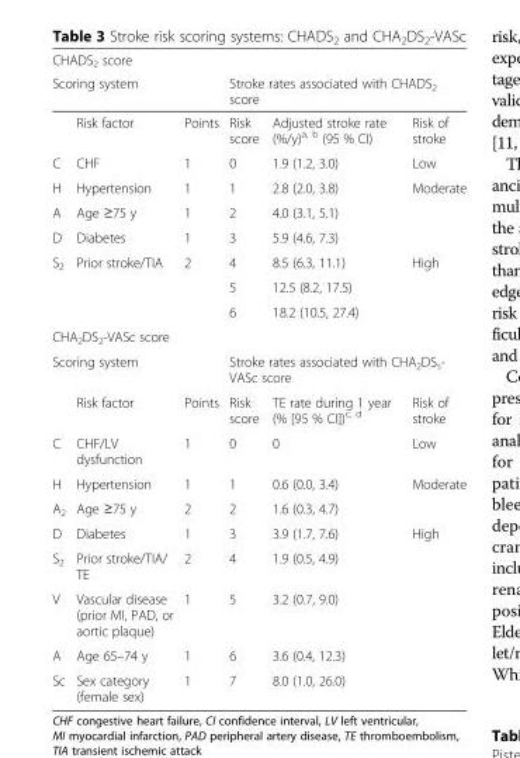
<table><thead><tr><td colspan="6">CHADS<sub>2</sub> score</td></tr><tr><td colspan="3">Scoring system</td><td colspan="3">Stroke rates associated with CHADS<sub>2</sub> score</td></tr><tr><td></td><td>Risk factor</td><td>Points</td><td>Risk score</td><td>Adjusted stroke rate (%/y)<sup>a, b</sup> (95 % CI)</td><td>Risk of stroke</td></tr></thead><tbody><tr><td>C</td><td>CHF</td><td>1</td><td>0</td><td>1.9 (1.2, 3.0)</td><td>Low</td></tr><tr><td>H</td><td>Hypertension</td><td>1</td><td>1</td><td>2.8 (2.0, 3.8)</td><td rowspan="3">Moderate</td></tr><tr><td>A</td><td>Age ≥75 y</td><td>1</td><td>2</td><td>4.0 (3.1, 5.1)</td></tr><tr><td>D</td><td>Diabetes</td><td>1</td><td>3</td><td>5.9 (4.6, 7.3)</td></tr><tr><td rowspan="3">S<sub>2</sub></td><td rowspan="3">Prior stroke/TIA</td><td rowspan="3">2</td><td>4</td><td>8.5 (6.3, 11.1)</td><td rowspan="3">High</td></tr><tr><td>5</td><td>12.5 (8.2, 17.5)</td></tr><tr><td>6</td><td>18.2 (10.5, 27.4)</td></tr><tr><td colspan="6">CHA<sub>2</sub>DS<sub>2</sub>-VASc score</td></tr><tr><td colspan="3">Scoring system</td><td colspan="3">Stroke rates associated with CHA<sub>2</sub>DS<sub>s</sub>- VASc score</td></tr><tr><td></td><td>Risk factor</td><td>Points</td><td>Risk score</td><td>TE rate during 1 year (% [95 % CI])<sup>c, d</sup></td><td>Risk of stroke</td></tr><tr><td>C</td><td>CHF/LV dysfunction</td><td>1</td><td>0</td><td>0</td><td>Low</td></tr><tr><td>H</td><td>Hypertension</td><td>1</td><td>1</td><td>0.6 (0.0, 3.4)</td><td rowspan="2">Moderate</td></tr><tr><td>A<sub>2</sub></td><td>Age ≥75 y</td><td>2</td><td>2</td><td>1.6 (0.3, 4.7)</td></tr><tr><td>D</td><td>Diabetes</td><td>1</td><td>3</td><td>3.9 (1.7, 7.6)</td><td rowspan="5">High</td></tr><tr><td>S<sub>2</sub></td><td>Prior stroke/TIA/ TE</td><td>2</td><td>4</td><td>1.9 (0.5, 4.9)</td></tr><tr><td>V</td><td>Vascular disease (prior MI, PAD, or aortic plaque)</td><td>1</td><td>5</td><td>3.2 (0.7, 9.0)</td></tr><tr><td>A</td><td>Age 65–74 y</td><td>1</td><td>6</td><td>3.6 (0.4, 12.3)</td></tr><tr><td>Sc</td><td>Sex category (female sex)</td><td>1</td><td>7</td><td>8.0 (1.0, 26.0)</td></tr></tbody></table>